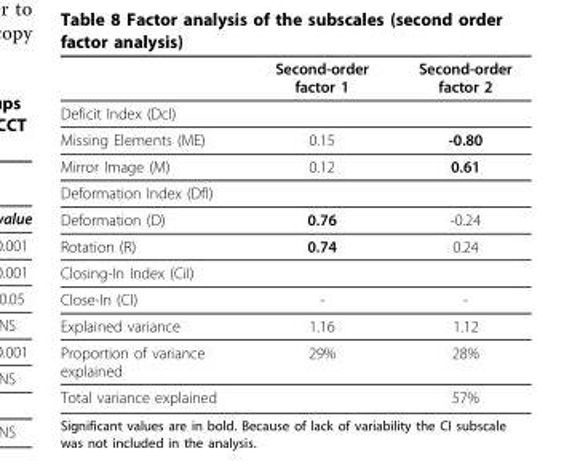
<table><thead><tr><td></td><td>Second-order factor 1</td><td>Second-order factor 2</td></tr></thead><tbody><tr><td colspan="3">Deficit Index (DcI)</td></tr><tr><td>Missing Elements (ME)</td><td>0.15</td><td>-0.80</td></tr><tr><td>Mirror Image (M)</td><td>0.12</td><td>0.61</td></tr><tr><td colspan="3">Deformation Index (DfI)</td></tr><tr><td>Deformation (D)</td><td>0.76</td><td>-0.24</td></tr><tr><td>Rotation (R)</td><td>0.74</td><td>0.24</td></tr><tr><td colspan="3">Closing-In Index (CiI)</td></tr><tr><td>Close-In (CI)</td><td>-</td><td>-</td></tr><tr><td>Explained variance</td><td>1.16</td><td>1.12</td></tr><tr><td>Proportion of variance explained</td><td>29%</td><td>28%</td></tr><tr><td>Total variance explained</td><td></td><td>57%</td></tr></tbody></table>